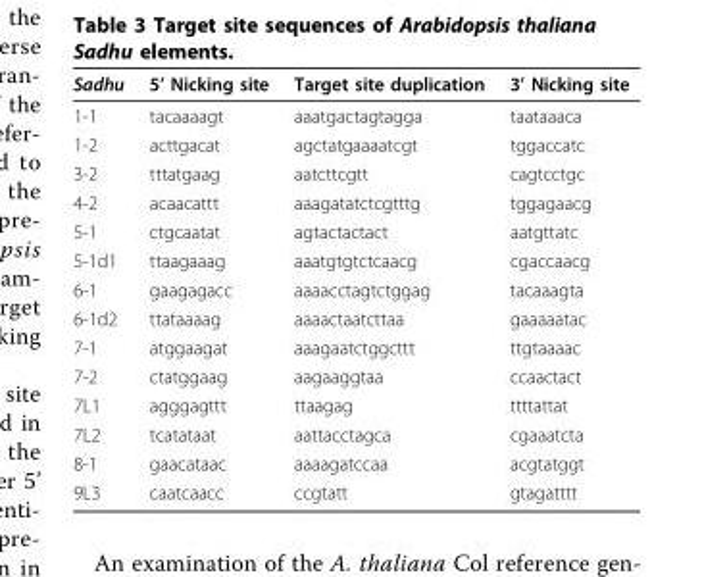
<table><thead><tr><td>Sadhu</td><td>5’ Nicking site</td><td>Target site duplication</td><td>3’ Nicking site</td></tr></thead><tbody><tr><td>1-1</td><td>tacaaaagt</td><td>aaatgactagtagga</td><td>taataaaca</td></tr><tr><td>1-2</td><td>acttgacat</td><td>agctatgaaaatcgt</td><td>tggaccatc</td></tr><tr><td>3-2</td><td>tttatgaag</td><td>aatcttcgtt</td><td>cagtcctgc</td></tr><tr><td>4-2</td><td>acaacattt</td><td>aaagatatctcgtttg</td><td>tggagaacg</td></tr><tr><td>5-1</td><td>ctgcaatat</td><td>agtactactact</td><td>aatgttatc</td></tr><tr><td>5-1d1</td><td>ttaagaaag</td><td>aaatgtgtctcaacg</td><td>cgaccaacg</td></tr><tr><td>6-1</td><td>gaagagacc</td><td>aaaacctagtctggag</td><td>tacaaagta</td></tr><tr><td>6-1d2</td><td>ttataaaag</td><td>aaaactaatcttaa</td><td>gaaaaatac</td></tr><tr><td>7-1</td><td>atggaagat</td><td>aaagaatctggcttt</td><td>ttgtaaaac</td></tr><tr><td>7-2</td><td>ctatggaag</td><td>aagaaggtaa</td><td>ccaactact</td></tr><tr><td>7L1</td><td>agggagttt</td><td>ttaagag</td><td>ttttattat</td></tr><tr><td>7L2</td><td>tcatataat</td><td>aattacctagca</td><td>cgaaatcta</td></tr><tr><td>8-1</td><td>gaacataac</td><td>aaaagatccaa</td><td>acgtatggt</td></tr><tr><td>9L3</td><td>caatcaacc</td><td>ccgtatt</td><td>gtagatttt</td></tr></tbody></table>